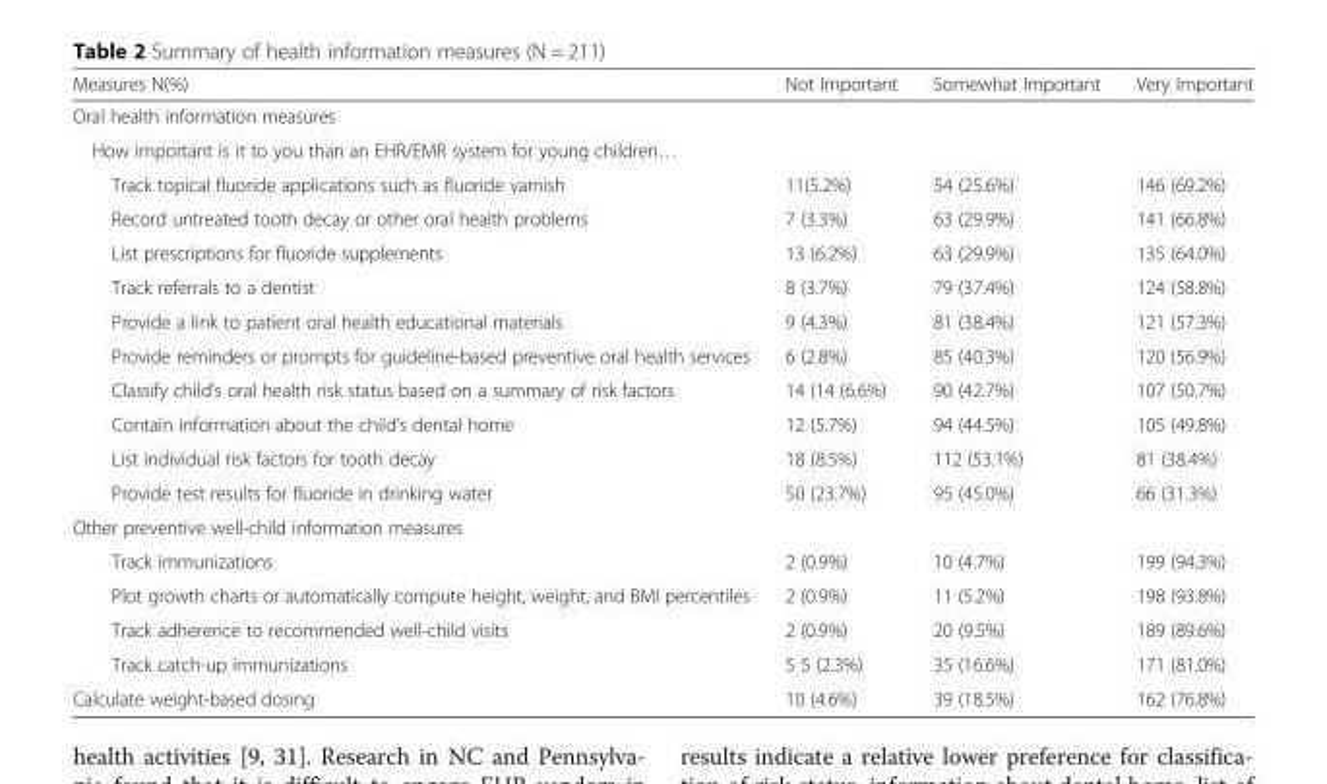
<table><thead><tr><td>Measures N(%)</td><td>Not Important</td><td>Somewhat Important</td><td>Very Important</td></tr></thead><tbody><tr><td colspan="4">Oral health information measures</td></tr><tr><td colspan="4">How important is it to you than an EHR/EMR system for young children…</td></tr><tr><td>Track topical fluoride applications such as fluoride varnish</td><td>11(5.2%)</td><td>54 (25.6%)</td><td>146 (69.2%)</td></tr><tr><td>Record untreated tooth decay or other oral health problems</td><td>7 (3.3%)</td><td>63 (29.9%)</td><td>141 (66.8%)</td></tr><tr><td>List prescriptions for fluoride supplements</td><td>13 (6.2%)</td><td>63 (29.9%)</td><td>135 (64.0%)</td></tr><tr><td>Track referrals to a dentist</td><td>8 (3.7%)</td><td>79 (37.4%)</td><td>124 (58.8%)</td></tr><tr><td>Provide a link to patient oral health educational materials</td><td>9 (4.3%)</td><td>81 (38.4%)</td><td>121 (57.3%)</td></tr><tr><td>Provide reminders or prompts for guideline-based preventive oral health services</td><td>6 (2.8%)</td><td>85 (40.3%)</td><td>120 (56.9%)</td></tr><tr><td>Classify child’s oral health risk status based on a summary of risk factors</td><td>14 (14 (6.6%)</td><td>90 (42.7%)</td><td>107 (50.7%)</td></tr><tr><td>Contain information about the child’s dental home</td><td>12 (5.7%)</td><td>94 (44.5%)</td><td>105 (49.8%)</td></tr><tr><td>List individual risk factors for tooth decay</td><td>18 (8.5%)</td><td>112 (53.1%)</td><td>81 (38.4%)</td></tr><tr><td>Provide test results for fluoride in drinking water</td><td>50 (23.7%)</td><td>95 (45.0%)</td><td>66 (31.3%)</td></tr><tr><td colspan="4">Other preventive well-child information measures</td></tr><tr><td>Track immunizations</td><td>2 (0.9%)</td><td>10 (4.7%)</td><td>199 (94.3%)</td></tr><tr><td>Plot growth charts or automatically compute height, weight, and BMI percentiles</td><td>2 (0.9%)</td><td>11 (5.2%)</td><td>198 (93.8%)</td></tr><tr><td>Track adherence to recommended well-child visits</td><td>2 (0.9%)</td><td>20 (9.5%)</td><td>189 (89.6%)</td></tr><tr><td>Track catch-up immunizations</td><td>5 5 (2.3%)</td><td>35 (16.6%)</td><td>171 (81.0%)</td></tr><tr><td>Calculate weight-based dosing</td><td>10 (4.6%)</td><td>39 (18.5%)</td><td>162 (76.8%)</td></tr></tbody></table>